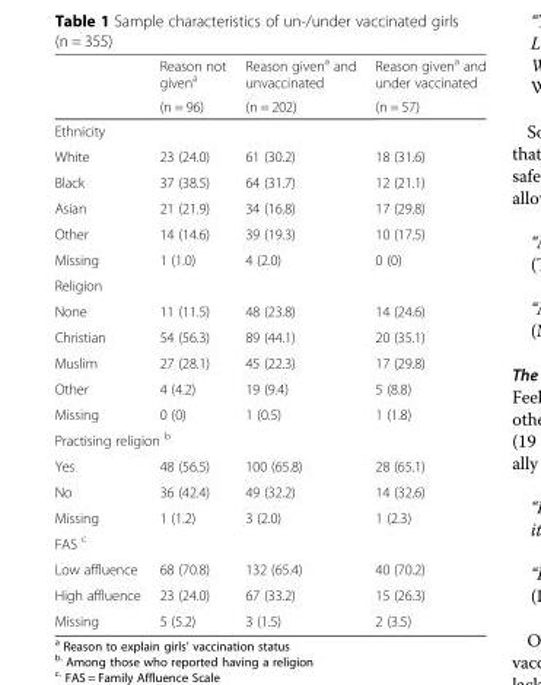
<table><thead><tr><td rowspan="2"></td><td rowspan="2">Reason not given<sup>a</sup> (n = 96)</td><td rowspan="2">Reason given<sup>a</sup> and unvaccinated (n = 202)</td><td rowspan="2">Reason given<sup>a</sup> and under vaccinated (n = 57)</td></tr><tr></tr></thead><tbody><tr><td colspan="4">Ethnicity</td></tr><tr><td>White</td><td>23 (24.0)</td><td>61 (30.2)</td><td>18 (31.6)</td></tr><tr><td>Black</td><td>37 (38.5)</td><td>64 (31.7)</td><td>12 (21.1)</td></tr><tr><td>Asian</td><td>21 (21.9)</td><td>34 (16.8)</td><td>17 (29.8)</td></tr><tr><td>Other</td><td>14 (14.6)</td><td>39 (19.3)</td><td>10 (17.5)</td></tr><tr><td>Missing</td><td>1 (1.0)</td><td>4 (2.0)</td><td>0 (0)</td></tr><tr><td colspan="4">Religion</td></tr><tr><td>None</td><td>11 (11.5)</td><td>48 (23.8)</td><td>14 (24.6)</td></tr><tr><td>Christian</td><td>54 (56.3)</td><td>89 (44.1)</td><td>20 (35.1)</td></tr><tr><td>Muslim</td><td>27 (28.1)</td><td>45 (22.3)</td><td>17 (29.8)</td></tr><tr><td>Other</td><td>4 (4.2)</td><td>19 (9.4)</td><td>5 (8.8)</td></tr><tr><td>Missing</td><td>0 (0)</td><td>1 (0.5)</td><td>1 (1.8)</td></tr><tr><td colspan="4">Practising religion <sup>b</sup></td></tr><tr><td>Yes</td><td>48 (56.5)</td><td>100 (65.8)</td><td>28 (65.1)</td></tr><tr><td>No</td><td>36 (42.4)</td><td>49 (32.2)</td><td>14 (32.6)</td></tr><tr><td>Missing</td><td>1 (1.2)</td><td>3 (2.0)</td><td>1 (2.3)</td></tr><tr><td colspan="4">FAS <sup>c</sup></td></tr><tr><td>Low affluence</td><td>68 (70.8)</td><td>132 (65.4)</td><td>40 (70.2)</td></tr><tr><td>High affluence</td><td>23 (24.0)</td><td>67 (33.2)</td><td>15 (26.3)</td></tr><tr><td>Missing</td><td>5 (5.2)</td><td>3 (1.5)</td><td>2 (3.5)</td></tr></tbody></table>